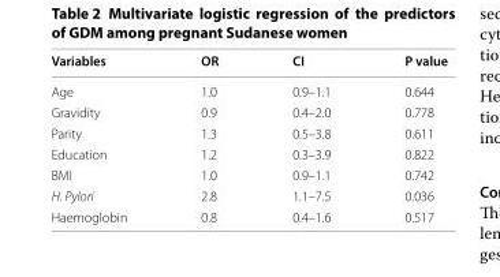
<table><thead><tr><td>Variables</td><td>OR</td><td>CI</td><td>P value</td></tr></thead><tbody><tr><td>Age</td><td>1.0</td><td>0.9–1.1</td><td>0.644</td></tr><tr><td>Gravidity</td><td>0.9</td><td>0.4–2.0</td><td>0.778</td></tr><tr><td>Parity</td><td>1.3</td><td>0.5–3.8</td><td>0.611</td></tr><tr><td>Education</td><td>1.2</td><td>0.3–3.9</td><td>0.822</td></tr><tr><td>BMI</td><td>1.0</td><td>0.9–1.1</td><td>0.742</td></tr><tr><td>H. Pylori</td><td>2.8</td><td>1.1–7.5</td><td>0.036</td></tr><tr><td>Haemoglobin</td><td>0.8</td><td>0.4–1.6</td><td>0.517</td></tr></tbody></table>